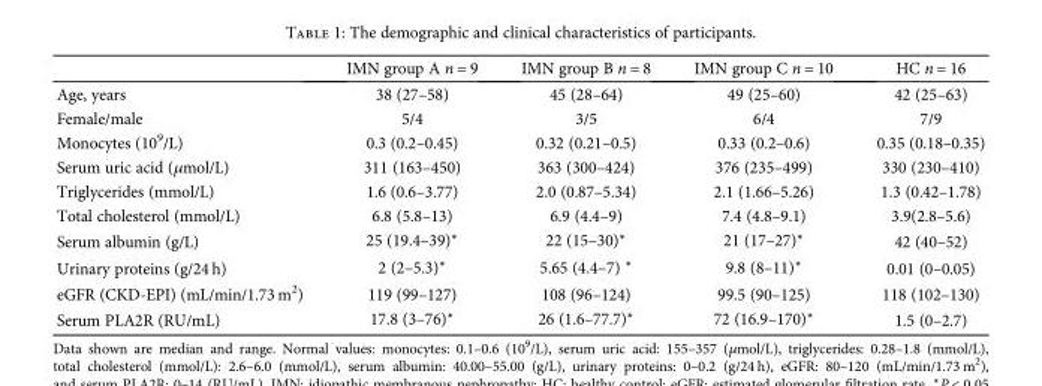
<table><thead><tr><td></td><td>IMN group A n = 9</td><td>IMN group B n = 8</td><td>IMN group C n = 10</td><td>HC n = 16</td></tr></thead><tbody><tr><td>Age, years</td><td>38 (27–58)</td><td>45 (28–64)</td><td>49 (25–60)</td><td>42 (25–63)</td></tr><tr><td>Female/male</td><td>5/4</td><td>3/5</td><td>6/4</td><td>7/9</td></tr><tr><td>Monocytes (10<sup>9</sup>/L)</td><td>0.3 (0.2–0.45)</td><td>0.32 (0.21–0.5)</td><td>0.33 (0.2–0.6)</td><td>0.35 (0.18–0.35)</td></tr><tr><td>Serum uric acid (μmol/L)</td><td>311 (163–450)</td><td>363 (300–424)</td><td>376 (235–499)</td><td>330 (230–410)</td></tr><tr><td>Triglycerides (mmol/L)</td><td>1.6 (0.6–3.77)</td><td>2.0 (0.87–5.34)</td><td>2.1 (1.66–5.26)</td><td>1.3 (0.42–1.78)</td></tr><tr><td>Total cholesterol (mmol/L)</td><td>6.8 (5.8–13)</td><td>6.9 (4.4–9)</td><td>7.4 (4.8–9.1)</td><td>3.9(2.8–5.6)</td></tr><tr><td>Serum albumin (g/L)</td><td>25 (19.4–39)∗</td><td>22 (15–30)∗</td><td>21 (17–27)∗</td><td>42 (40–52)</td></tr><tr><td>Urinary proteins (g/24 h)</td><td>2 (2–5.3)∗</td><td>5.65 (4.4–7) ∗</td><td>9.8 (8–11)∗</td><td>0.01 (0–0.05)</td></tr><tr><td>eGFR (CKD-EPI) (mL/min/1.73 m<sup>2</sup>)</td><td>119 (99–127)</td><td>108 (96–124)</td><td>99.5 (90–125)</td><td>118 (102–130)</td></tr><tr><td>Serum PLA2R (RU/mL)</td><td>17.8 (3–76)∗</td><td>26 (1.6–77.7)∗</td><td>72 (16.9–170)∗</td><td>1.5 (0–2.7)</td></tr></tbody></table>